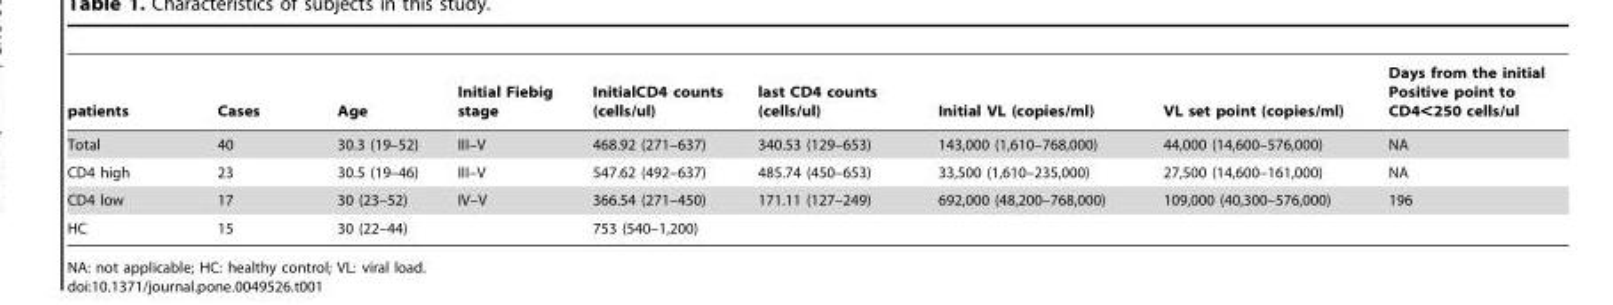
<table><thead><tr><td>patients</td><td>Cases</td><td>Age</td><td>Initial Fiebig stage</td><td>InitialCD4 counts (cells/ul)</td><td>last CD4 counts (cells/ul)</td><td>Initial VL (copies/ml)</td><td>VL set point (copies/ml)</td><td>Days from the initial Positive point to CD4&lt;250 cells/ul</td></tr></thead><tbody><tr><td>Total</td><td>40</td><td>30.3 (19–52)</td><td>III–V</td><td>468.92 (271–637)</td><td>340.53 (129–653)</td><td>143,000 (1,610–768,000)</td><td>44,000 (14,600–576,000)</td><td>NA</td></tr><tr><td>CD4 high</td><td>23</td><td>30.5 (19–46)</td><td>III–V</td><td>547.62 (492–637)</td><td>485.74 (450–653)</td><td>33,500 (1,610–235,000)</td><td>27,500 (14,600–161,000)</td><td>NA</td></tr><tr><td>CD4 low</td><td>17</td><td>30 (23–52)</td><td>IV–V</td><td>366.54 (271–450)</td><td>171.11 (127–249)</td><td>692,000 (48,200–768,000)</td><td>109,000 (40,300–576,000)</td><td>196</td></tr><tr><td>HC</td><td>15</td><td>30 (22–44)</td><td></td><td>753 (540–1,200)</td><td></td><td></td><td></td><td></td></tr></tbody></table>